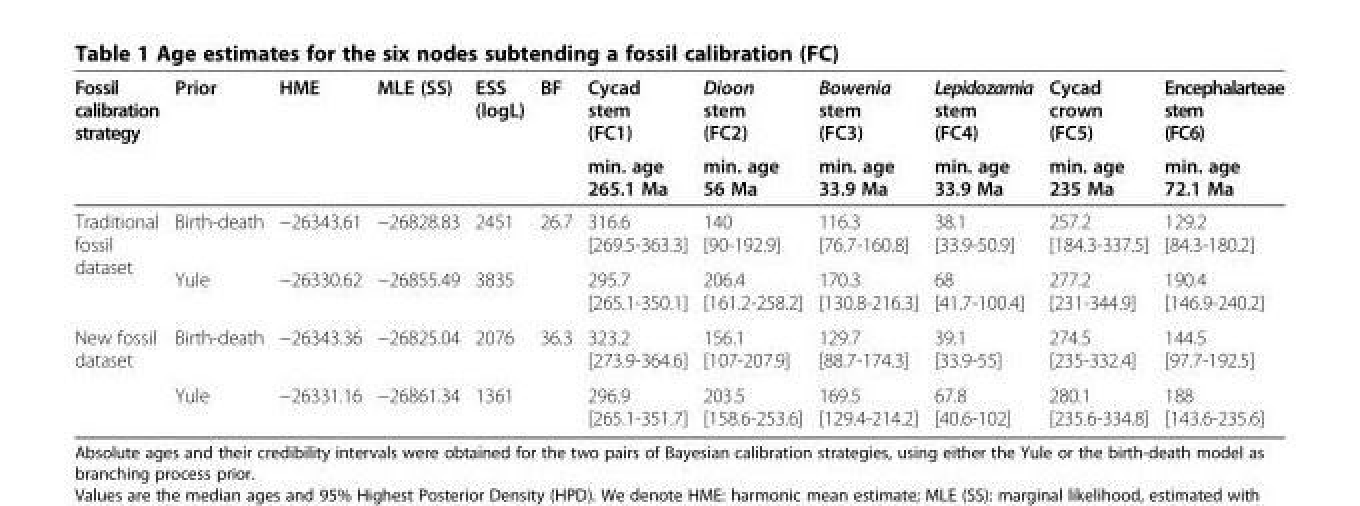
<table><thead><tr><td rowspan="2">Fossil calibration strategy</td><td rowspan="2">Prior</td><td rowspan="2">HME</td><td rowspan="2">MLE (SS)</td><td rowspan="2">ESS (logL)</td><td rowspan="2">BF</td><td rowspan="2">Cycad stem (FC1) min. age 265.1 Ma</td><td rowspan="2">Dioon stem (FC2) min. age 56 Ma</td><td rowspan="2">Bowenia stem (FC3) min. age 33.9 Ma</td><td rowspan="2">Lepidozamia stem (FC4) min. age 33.9 Ma</td><td rowspan="2">Cycad crown (FC5) min. age 235 Ma</td><td rowspan="2">Encephalarteae stem (FC6) min. age 72.1 Ma</td></tr><tr></tr></thead><tbody><tr><td rowspan="2">Traditional fossil dataset</td><td>Birth-death</td><td>−26343.61</td><td>−26828.83</td><td>2451</td><td rowspan="2">26.7</td><td>316.6 [269.5-363.3]</td><td>140 [90-192.9]</td><td>116.3 [76.7-160.8]</td><td>38.1 [33.9-50.9]</td><td>257.2 [184.3-337.5]</td><td>129.2 [84.3-180.2]</td></tr><tr><td>Yule</td><td>−26330.62</td><td>−26855.49</td><td>3835</td><td>295.7 [265.1-350.1]</td><td>206.4 [161.2-258.2]</td><td>170.3 [130.8-216.3]</td><td>68 [41.7-100.4]</td><td>277.2 [231-344.9]</td><td>190.4 [146.9-240.2]</td></tr><tr><td rowspan="2">New fossil dataset</td><td>Birth-death</td><td>−26343.36</td><td>−26825.04</td><td>2076</td><td rowspan="2">36.3</td><td>323.2 [273.9-364.6]</td><td>156.1 [107-207.9]</td><td>129.7 [88.7-174.3]</td><td>39.1 [33.9-55]</td><td>274.5 [235-332.4]</td><td>144.5 [97.7-192.5]</td></tr><tr><td>Yule</td><td>−26331.16</td><td>−26861.34</td><td>1361</td><td>296.9 [265.1-351.7]</td><td>203.5 [158.6-253.6]</td><td>169.5 [129.4-214.2]</td><td>67.8 [40.6-102]</td><td>280.1 [235.6-334.8]</td><td>188 [143.6-235.6]</td></tr></tbody></table>